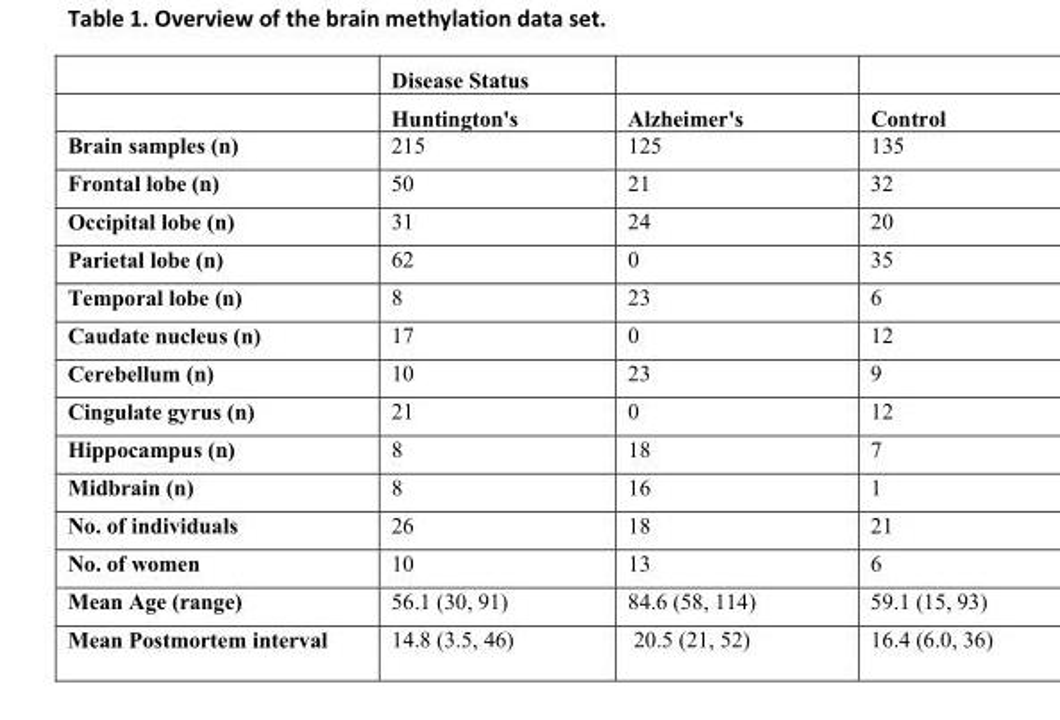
<table><thead><tr><td rowspan="2"></td><td rowspan="2">Disease Status Huntington&#x27;s</td><td rowspan="2">Alzheimer&#x27;s</td><td rowspan="2">Control</td></tr><tr></tr></thead><tbody><tr><td>Brain samples (n)</td><td>215</td><td>125</td><td>135</td></tr><tr><td>Frontal lobe (n)</td><td>50</td><td>21</td><td>32</td></tr><tr><td>Occipital lobe (n)</td><td>31</td><td>24</td><td>20</td></tr><tr><td>Parietal lobe (n)</td><td>62</td><td>0</td><td>35</td></tr><tr><td>Temporal lobe (n)</td><td>8</td><td>23</td><td>6</td></tr><tr><td>Caudate nucleus (n)</td><td>17</td><td>0</td><td>12</td></tr><tr><td>Cerebellum (n)</td><td>10</td><td>23</td><td>9</td></tr><tr><td>Cingulate gyrus (n)</td><td>21</td><td>0</td><td>12</td></tr><tr><td>Hippocampus (n)</td><td>8</td><td>18</td><td>7</td></tr><tr><td>Midbrain (n)</td><td>8</td><td>16</td><td>1</td></tr><tr><td>No. of individuals</td><td>26</td><td>18</td><td>21</td></tr><tr><td>No. of women</td><td>10</td><td>13</td><td>6</td></tr><tr><td>Mean Age (range)</td><td>56.1 (30, 91)</td><td>84.6 (58, 114)</td><td>59.1 (15, 93)</td></tr><tr><td>Mean Postmortem interval</td><td>14.8 (3.5, 46)</td><td>20.5 (21, 52)</td><td>16.4 (6.0, 36)</td></tr></tbody></table>